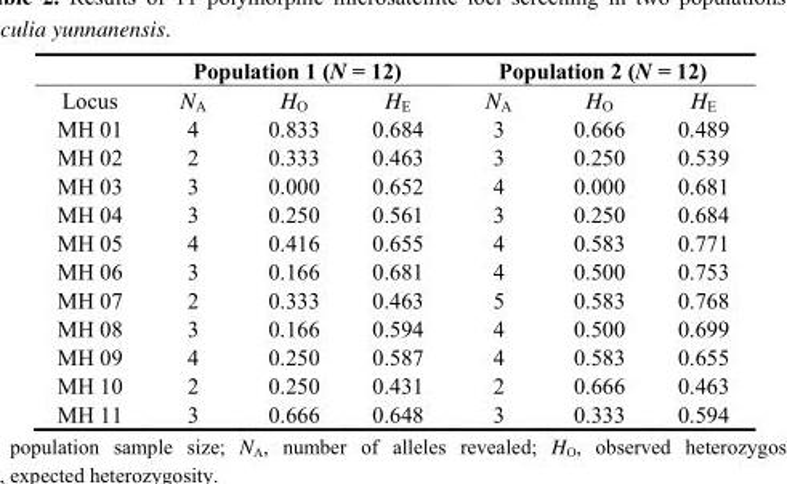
<table><thead><tr><td rowspan="2">Locus</td><td colspan="3">Population 1 (N = 12)</td><td colspan="3">Population 2 (N = 12)</td></tr><tr><td>N<sub>A</sub></td><td>H<sub>O</sub></td><td>H<sub>E</sub></td><td>N<sub>A</sub></td><td>H<sub>O</sub></td><td>H<sub>E</sub></td></tr></thead><tbody><tr><td>MH 01</td><td>4</td><td>0.833</td><td>0.684</td><td>3</td><td>0.666</td><td>0.489</td></tr><tr><td>MH 02</td><td>2</td><td>0.333</td><td>0.463</td><td>3</td><td>0.250</td><td>0.539</td></tr><tr><td>MH 03</td><td>3</td><td>0.000</td><td>0.652</td><td>4</td><td>0.000</td><td>0.681</td></tr><tr><td>MH 04</td><td>3</td><td>0.250</td><td>0.561</td><td>3</td><td>0.250</td><td>0.684</td></tr><tr><td>MH 05</td><td>4</td><td>0.416</td><td>0.655</td><td>4</td><td>0.583</td><td>0.771</td></tr><tr><td>MH 06</td><td>3</td><td>0.166</td><td>0.681</td><td>4</td><td>0.500</td><td>0.753</td></tr><tr><td>MH 07</td><td>2</td><td>0.333</td><td>0.463</td><td>5</td><td>0.583</td><td>0.768</td></tr><tr><td>MH 08</td><td>3</td><td>0.166</td><td>0.594</td><td>4</td><td>0.500</td><td>0.699</td></tr><tr><td>MH 09</td><td>4</td><td>0.250</td><td>0.587</td><td>4</td><td>0.583</td><td>0.655</td></tr><tr><td>MH 10</td><td>2</td><td>0.250</td><td>0.431</td><td>2</td><td>0.666</td><td>0.463</td></tr><tr><td>MH 11</td><td>3</td><td>0.666</td><td>0.648</td><td>3</td><td>0.333</td><td>0.594</td></tr></tbody></table>